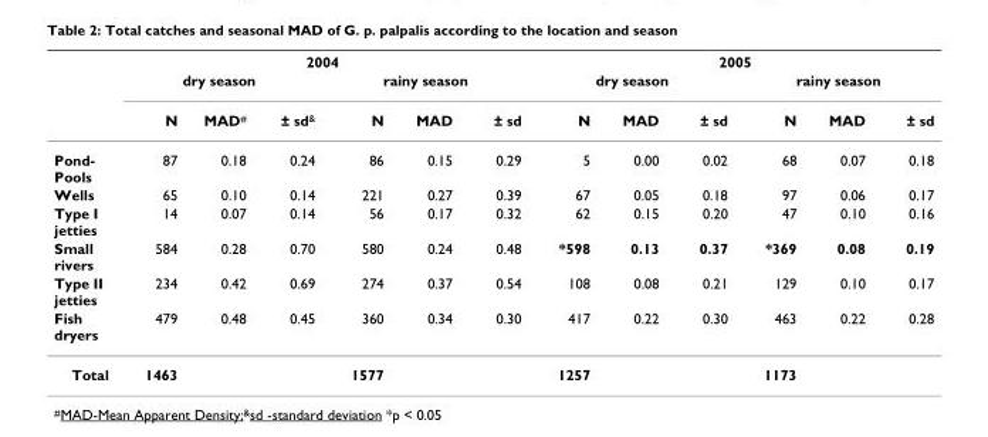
<table><thead><tr><td rowspan="3"></td><td colspan="6">2004</td><td colspan="6">2005</td></tr><tr><td colspan="3">dry season</td><td colspan="3">rainy season</td><td colspan="3">dry season</td><td colspan="3">rainy season</td></tr><tr><td>N</td><td>MAD<sup>#</sup></td><td>± sd<sup>&amp;</sup></td><td>N</td><td>MAD</td><td>± sd</td><td>N</td><td>MAD</td><td>± sd</td><td>N</td><td>MAD</td><td>± sd</td></tr></thead><tbody><tr><td>Pond- Pools</td><td>87</td><td>0.18</td><td>0.24</td><td>86</td><td>0.15</td><td>0.29</td><td>5</td><td>0.00</td><td>0.02</td><td>68</td><td>0.07</td><td>0.18</td></tr><tr><td>Wells</td><td>65</td><td>0.10</td><td>0.14</td><td>221</td><td>0.27</td><td>0.39</td><td>67</td><td>0.05</td><td>0.18</td><td>97</td><td>0.06</td><td>0.17</td></tr><tr><td>Type I jetties</td><td>14</td><td>0.07</td><td>0.14</td><td>56</td><td>0.17</td><td>0.32</td><td>62</td><td>0.15</td><td>0.20</td><td>47</td><td>0.10</td><td>0.16</td></tr><tr><td>Small rivers</td><td>584</td><td>0.28</td><td>0.70</td><td>580</td><td>0.24</td><td>0.48</td><td>*598</td><td>0.13</td><td>0.37</td><td>*369</td><td>0.08</td><td>0.19</td></tr><tr><td>Type II jetties</td><td>234</td><td>0.42</td><td>0.69</td><td>274</td><td>0.37</td><td>0.54</td><td>108</td><td>0.08</td><td>0.21</td><td>129</td><td>0.10</td><td>0.17</td></tr><tr><td>Fish dryers</td><td>479</td><td>0.48</td><td>0.45</td><td>360</td><td>0.34</td><td>0.30</td><td>417</td><td>0.22</td><td>0.30</td><td>463</td><td>0.22</td><td>0.28</td></tr><tr><td>Total</td><td>1463</td><td></td><td></td><td>1577</td><td></td><td></td><td>1257</td><td></td><td></td><td>1173</td><td></td><td></td></tr></tbody></table>